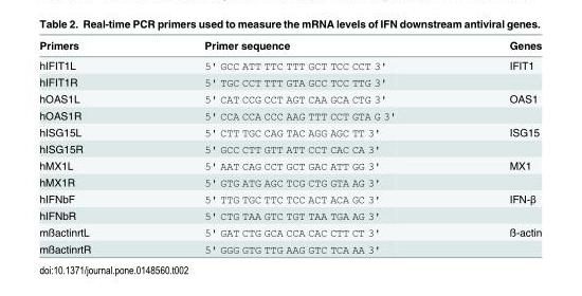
<table><thead><tr><td>Primers</td><td>Primer sequence</td><td>Genes</td></tr></thead><tbody><tr><td>hIFIT1L</td><td>5&#x27; GCC ATT TTC TTT GCT TCC CCT 3&#x27;</td><td>IFIT1</td></tr><tr><td>hIFIT1R</td><td>5&#x27; TGC CCT TTT GTA GCC TCC TTG 3&#x27;</td><td></td></tr><tr><td>hOAS1L</td><td>5&#x27; CAT CCG CCT AGT CAA GCA CTG 3&#x27;</td><td>OAS1</td></tr><tr><td>hOAS1R</td><td>5&#x27; CCA CCA CCC AAG TTT CCT GTA G 3&#x27;</td><td></td></tr><tr><td>hISG15L</td><td>5&#x27; CTT TGC CAG TAC AGG AGC TT 3&#x27;</td><td>ISG15</td></tr><tr><td>hISG15R</td><td>5&#x27; GCC CTT GTT ATT CCT CAC CA 3&#x27;</td><td></td></tr><tr><td>hMX1L</td><td>5&#x27; AAT CAG CCT GCT GAC ATT GG 3&#x27;</td><td>MX1</td></tr><tr><td>hMX1R</td><td>5&#x27; GTG ATG AGC TCG CTG GTA AG 3&#x27;</td><td></td></tr><tr><td>hIFNbF</td><td>5&#x27; TTG TGC TTC TCC ACT ACA GC 3&#x27;</td><td>IFN-β</td></tr><tr><td>hIFNbR</td><td>5&#x27; CTG TAA GTC TGT TAA TGA AG 3&#x27;</td><td></td></tr><tr><td>mßactinrtL</td><td>5&#x27; GAT CTG GCA CCA CAC CTT CT 3&#x27;</td><td>ß-actin</td></tr><tr><td>mßactinrtR</td><td>5&#x27; GGG GTG TTG AAG GTC TCA AA 3&#x27;</td><td></td></tr></tbody></table>